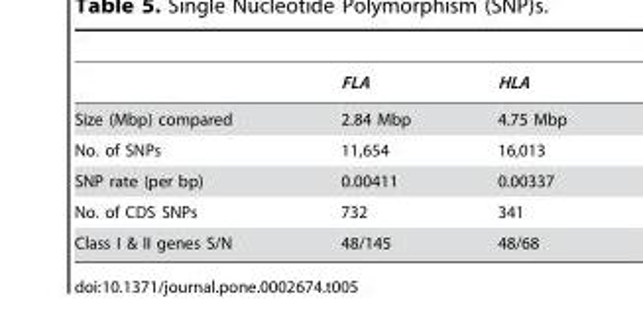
<table><thead><tr><td></td><td>FLA</td><td>HLA</td></tr></thead><tbody><tr><td>Size (Mbp) compared</td><td>2.84 Mbp</td><td>4.75 Mbp</td></tr><tr><td>No. of SNPs</td><td>11,654</td><td>16,013</td></tr><tr><td>SNP rate (per bp)</td><td>0.00411</td><td>0.00337</td></tr><tr><td>No. of CDS SNPs</td><td>732</td><td>341</td></tr><tr><td>Class I &amp; II genes S/N</td><td>48/145</td><td>48/68</td></tr></tbody></table>